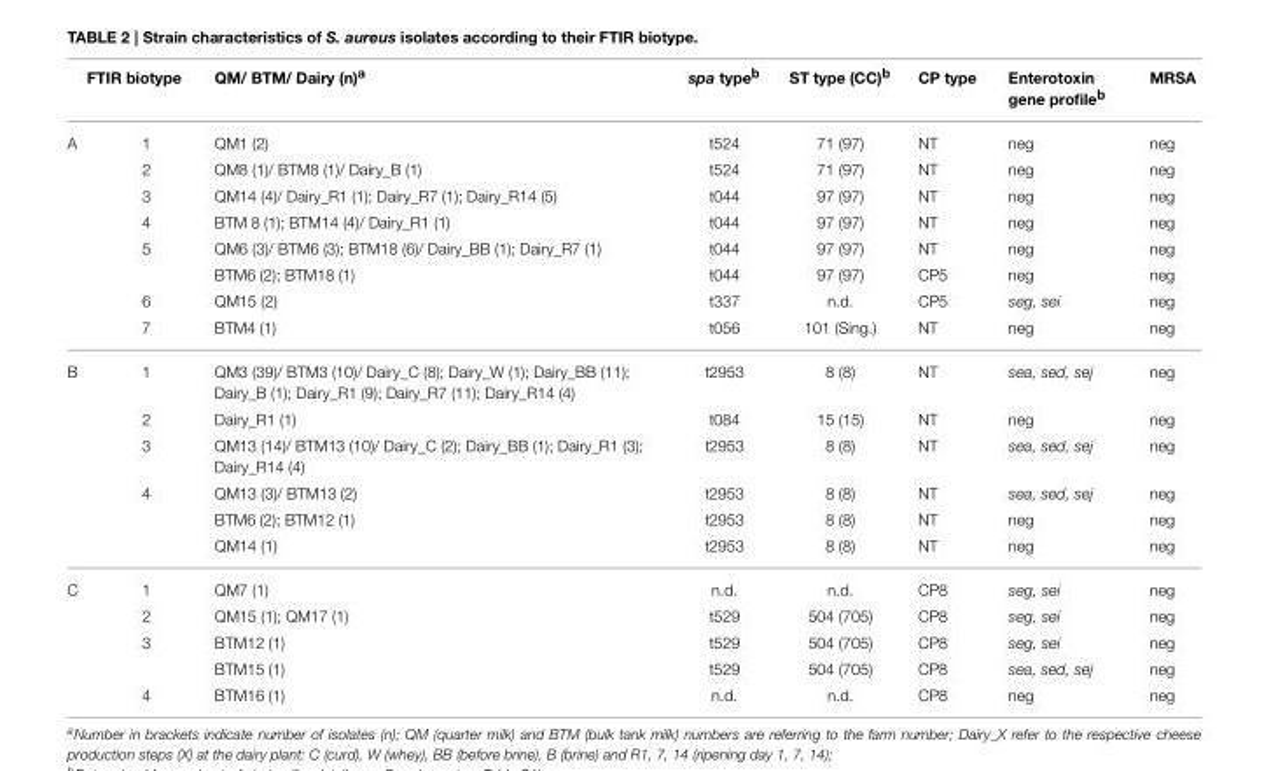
<table><thead><tr><td colspan="2">FTIR biotype</td><td rowspan="2">QM/ BTM/ Dairy (n)<sup>a</sup> QM1 (2)</td><td rowspan="2">spa type<sup>b</sup> t524</td><td rowspan="2">ST type (CC)<sup>b</sup> 71 (97)</td><td rowspan="2">CP type NT</td><td rowspan="2">Enterotoxin gene profile<sup>b</sup> neg</td><td rowspan="2">MRSA neg</td></tr><tr><td>A</td><td>1</td></tr></thead><tbody><tr><td></td><td>2</td><td>QM8 (1)/ BTM8 (1)/ Dairy_B (1)</td><td>t524</td><td>71 (97)</td><td>NT</td><td>neg</td><td>neg</td></tr><tr><td></td><td>3</td><td>QM14 (4)/ Dairy_R1 (1); Dairy_R7 (1); Dairy_R14 (5)</td><td>t044</td><td>97 (97)</td><td>NT</td><td>neg</td><td>neg</td></tr><tr><td></td><td>4</td><td>BTM 8 (1); BTM14 (4)/ Dairy_R1 (1)</td><td>t044</td><td>97 (97)</td><td>NT</td><td>neg</td><td>neg</td></tr><tr><td></td><td>5</td><td>QM6 (3)/ BTM6 (3); BTM18 (6)/ Dairy_BB (1); Dairy_R7 (1)</td><td>t044</td><td>97 (97)</td><td>NT</td><td>neg</td><td>neg</td></tr><tr><td></td><td></td><td>BTM6 (2); BTM18 (1)</td><td>t044</td><td>97 (97)</td><td>CP5</td><td>neg</td><td>neg</td></tr><tr><td></td><td>6</td><td>QM15 (2)</td><td>t337</td><td>n.d.</td><td>CP5</td><td>seg, sei</td><td>neg</td></tr><tr><td></td><td>7</td><td>BTM4 (1)</td><td>t056</td><td>101 (Sing.)</td><td>NT</td><td>neg</td><td>neg</td></tr><tr><td rowspan="6">B</td><td>1</td><td>QM3 (39)/ BTM3 (10)/ Dairy_C (8); Dairy_W (1); Dairy_BB (11); Dairy_B (1); Dairy_R1 (9); Dairy_R7 (11); Dairy_R14 (4)</td><td>t2953</td><td>8 (8)</td><td>NT</td><td>sea, sed, sej</td><td>neg</td></tr><tr><td>2</td><td>Dairy_R1 (1)</td><td>t084</td><td>15 (15)</td><td>NT</td><td>neg</td><td>neg</td></tr><tr><td>3</td><td>QM13 (14)/ BTM13 (10)/ Dairy_C (2); Dairy_BB (1); Dairy_R1 (3); Dairy_R14 (4)</td><td>t2953</td><td>8 (8)</td><td>NT</td><td>sea, sed, sej</td><td>neg</td></tr><tr><td>4</td><td>QM13 (3)/ BTM13 (2)</td><td>t2953</td><td>8 (8)</td><td>NT</td><td>sea, sed, sej</td><td>neg</td></tr><tr><td></td><td>BTM6 (2); BTM12 (1)</td><td>t2953</td><td>8 (8)</td><td>NT</td><td>neg</td><td>neg</td></tr><tr><td></td><td>QM14 (1)</td><td>t2953</td><td>8 (8)</td><td>NT</td><td>neg</td><td>neg</td></tr><tr><td rowspan="5">C</td><td>1</td><td>QM7 (1)</td><td>n.d.</td><td>n.d.</td><td>CP8</td><td>seg, sei</td><td>neg</td></tr><tr><td>2</td><td>QM15 (1); QM17 (1)</td><td>t529</td><td>504 (705)</td><td>CP8</td><td>seg, sei</td><td>neg</td></tr><tr><td>3</td><td>BTM12 (1)</td><td>t529</td><td>504 (705)</td><td>CP8</td><td>seg, sei</td><td>neg</td></tr><tr><td></td><td>BTM15 (1)</td><td>t529</td><td>504 (705)</td><td>CP8</td><td>sea, sed, sej</td><td>neg</td></tr><tr><td>4</td><td>BTM16 (1)</td><td>n.d.</td><td>n.d.</td><td>CP8</td><td>neg</td><td>neg</td></tr></tbody></table>